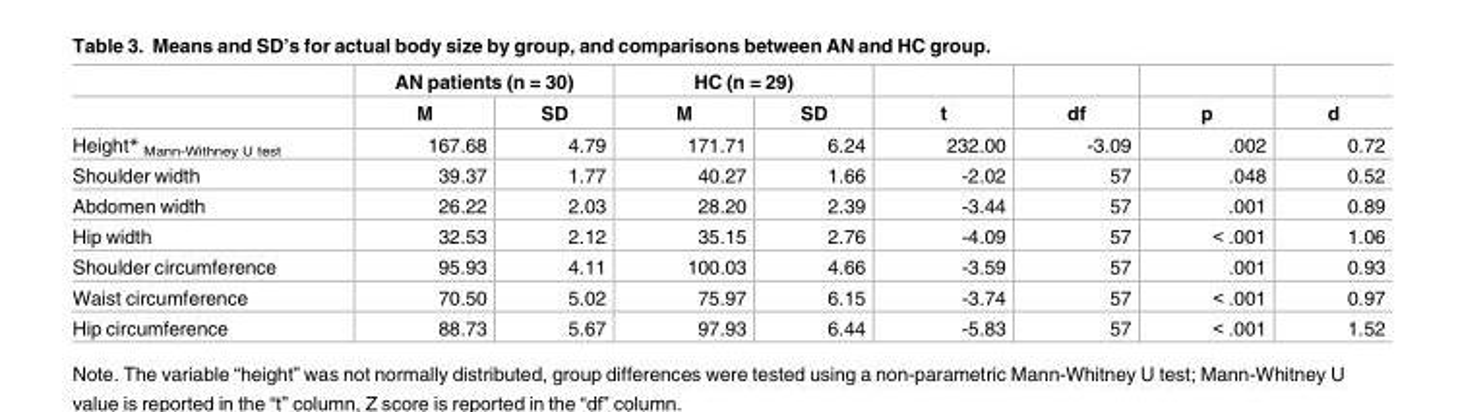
<table><thead><tr><td rowspan="2"></td><td colspan="2">AN patients (n = 30)</td><td colspan="2">HC (n = 29)</td><td rowspan="2">t</td><td rowspan="2">df</td><td rowspan="2">p</td><td rowspan="2">d</td></tr><tr><td>M</td><td>SD</td><td>M</td><td>SD</td></tr></thead><tbody><tr><td>Height* <sub>Mann-Withney U test</sub></td><td>167.68</td><td>4.79</td><td>171.71</td><td>6.24</td><td>232.00</td><td>-3.09</td><td>.002</td><td>0.72</td></tr><tr><td>Shoulder width</td><td>39.37</td><td>1.77</td><td>40.27</td><td>1.66</td><td>-2.02</td><td>57</td><td>.048</td><td>0.52</td></tr><tr><td>Abdomen width</td><td>26.22</td><td>2.03</td><td>28.20</td><td>2.39</td><td>-3.44</td><td>57</td><td>.001</td><td>0.89</td></tr><tr><td>Hip width</td><td>32.53</td><td>2.12</td><td>35.15</td><td>2.76</td><td>-4.09</td><td>57</td><td>&lt; .001</td><td>1.06</td></tr><tr><td>Shoulder circumference</td><td>95.93</td><td>4.11</td><td>100.03</td><td>4.66</td><td>-3.59</td><td>57</td><td>.001</td><td>0.93</td></tr><tr><td>Waist circumference</td><td>70.50</td><td>5.02</td><td>75.97</td><td>6.15</td><td>-3.74</td><td>57</td><td>&lt; .001</td><td>0.97</td></tr><tr><td>Hip circumference</td><td>88.73</td><td>5.67</td><td>97.93</td><td>6.44</td><td>-5.83</td><td>57</td><td>&lt; .001</td><td>1.52</td></tr></tbody></table>